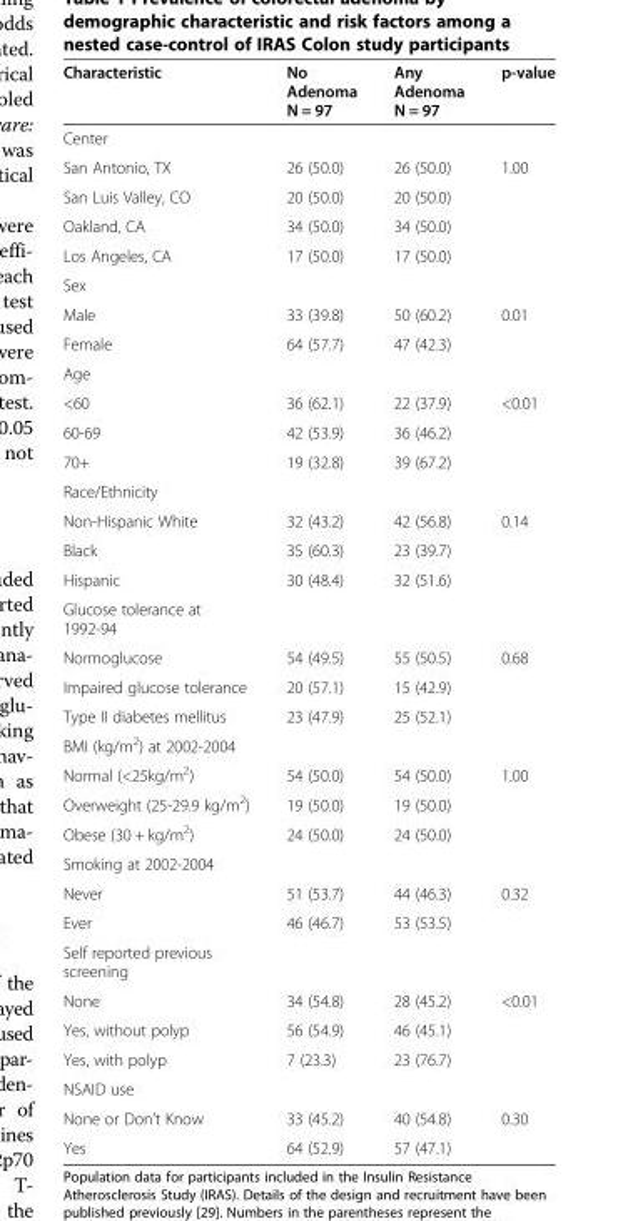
<table><thead><tr><td>Characteristic</td><td>No Adenoma N = 97</td><td>Any Adenoma N = 97</td><td>p-value</td></tr></thead><tbody><tr><td colspan="4">Center</td></tr><tr><td>San Antonio, TX</td><td>26 (50.0)</td><td>26 (50.0)</td><td rowspan="4">1.00</td></tr><tr><td>San Luis Valley, CO</td><td>20 (50.0)</td><td>20 (50.0)</td></tr><tr><td>Oakland, CA</td><td>34 (50.0)</td><td>34 (50.0)</td></tr><tr><td>Los Angeles, CA</td><td>17 (50.0)</td><td>17 (50.0)</td></tr><tr><td colspan="4">Sex</td></tr><tr><td>Male</td><td>33 (39.8)</td><td>50 (60.2)</td><td rowspan="2">0.01</td></tr><tr><td>Female</td><td>64 (57.7)</td><td>47 (42.3)</td></tr><tr><td colspan="4">Age</td></tr><tr><td>&lt;60</td><td>36 (62.1)</td><td>22 (37.9)</td><td rowspan="3">&lt;0.01</td></tr><tr><td>60-69</td><td>42 (53.9)</td><td>36 (46.2)</td></tr><tr><td>70+</td><td>19 (32.8)</td><td>39 (67.2)</td></tr><tr><td colspan="4">Race/Ethnicity</td></tr><tr><td>Non-Hispanic White</td><td>32 (43.2)</td><td>42 (56.8)</td><td rowspan="3">0.14</td></tr><tr><td>Black</td><td>35 (60.3)</td><td>23 (39.7)</td></tr><tr><td>Hispanic</td><td>30 (48.4)</td><td>32 (51.6)</td></tr><tr><td colspan="4">Glucose tolerance at 1992-94</td></tr><tr><td>Normoglucose</td><td>54 (49.5)</td><td>55 (50.5)</td><td rowspan="3">0.68</td></tr><tr><td>Impaired glucose tolerance</td><td>20 (57.1)</td><td>15 (42.9)</td></tr><tr><td>Type II diabetes mellitus</td><td>23 (47.9)</td><td>25 (52.1)</td></tr><tr><td colspan="4">BMI (kg/m<sup>2</sup>) at 2002-2004</td></tr><tr><td>Normal (&lt;25kg/m<sup>2</sup>)</td><td>54 (50.0)</td><td>54 (50.0)</td><td rowspan="3">1.00</td></tr><tr><td>Overweight (25-29.9 kg/m<sup>2</sup>)</td><td>19 (50.0)</td><td>19 (50.0)</td></tr><tr><td>Obese (30 + kg/m<sup>2</sup>)</td><td>24 (50.0)</td><td>24 (50.0)</td></tr><tr><td colspan="4">Smoking at 2002-2004</td></tr><tr><td>Never</td><td>51 (53.7)</td><td>44 (46.3)</td><td rowspan="2">0.32</td></tr><tr><td>Ever</td><td>46 (46.7)</td><td>53 (53.5)</td></tr><tr><td colspan="4">Self reported previous screening</td></tr><tr><td>None</td><td>34 (54.8)</td><td>28 (45.2)</td><td rowspan="3">&lt;0.01</td></tr><tr><td>Yes, without polyp</td><td>56 (54.9)</td><td>46 (45.1)</td></tr><tr><td>Yes, with polyp</td><td>7 (23.3)</td><td>23 (76.7)</td></tr><tr><td colspan="4">NSAID use</td></tr><tr><td>None or Don’t Know</td><td>33 (45.2)</td><td>40 (54.8)</td><td rowspan="2">0.30</td></tr><tr><td>Yes</td><td>64 (52.9)</td><td>57 (47.1)</td></tr></tbody></table>